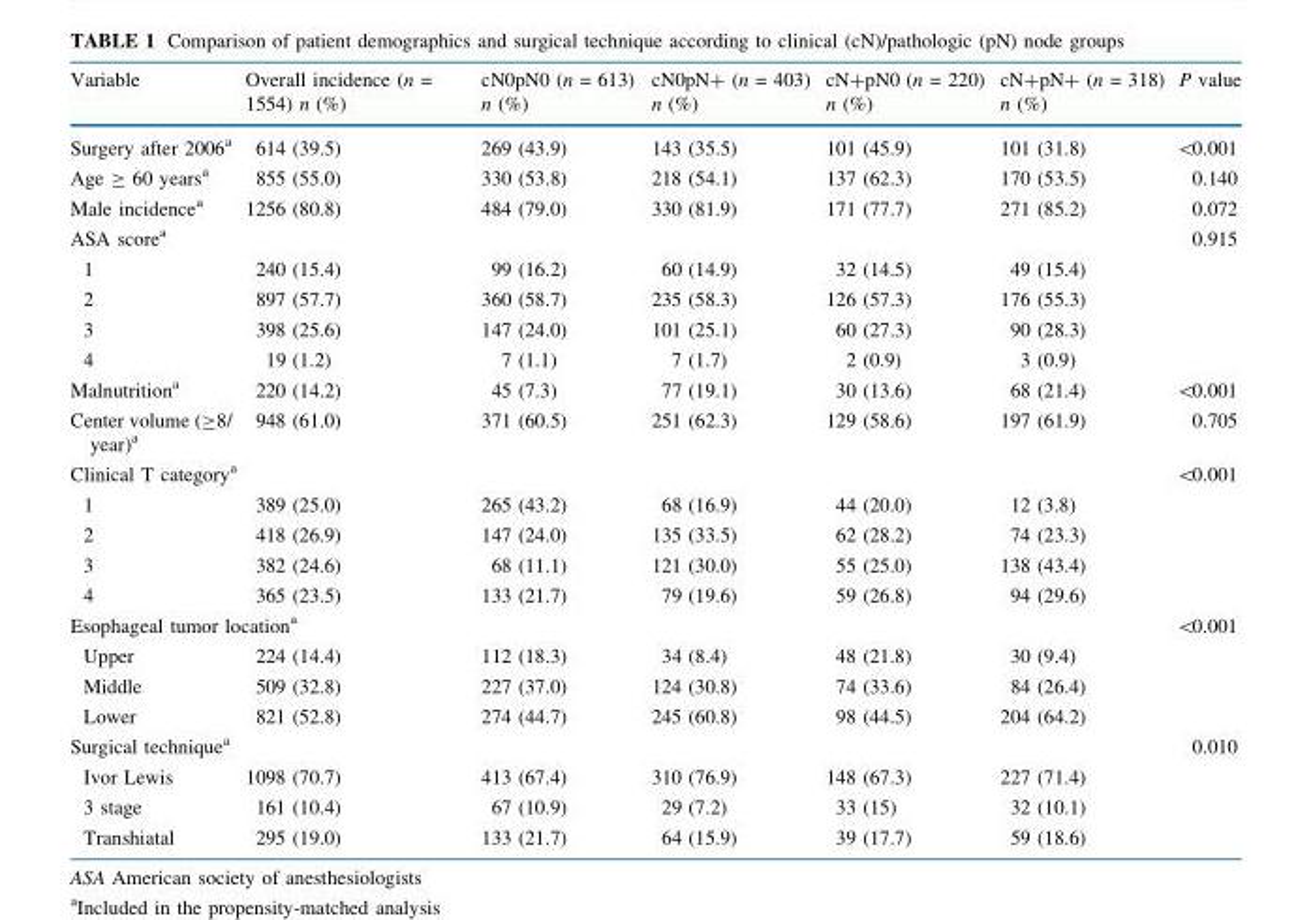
<table><thead><tr><td>Variable</td><td>Overall incidence (n = 1554) n (%)</td><td>cN0pN0 (n = 613) n (%)</td><td>cN0pN+ (n = 403) n (%)</td><td>cN+pN0 (n = 220) n (%)</td><td>cN+pN+ (n = 318) n (%)</td><td>P value</td></tr></thead><tbody><tr><td>Surgery after 2006<sup>a</sup></td><td>614 (39.5)</td><td>269 (43.9)</td><td>143 (35.5)</td><td>101 (45.9)</td><td>101 (31.8)</td><td>&lt;0.001</td></tr><tr><td>Age ≥ 60 years<sup>a</sup></td><td>855 (55.0)</td><td>330 (53.8)</td><td>218 (54.1)</td><td>137 (62.3)</td><td>170 (53.5)</td><td>0.140</td></tr><tr><td>Male incidence<sup>a</sup></td><td>1256 (80.8)</td><td>484 (79.0)</td><td>330 (81.9)</td><td>171 (77.7)</td><td>271 (85.2)</td><td>0.072</td></tr><tr><td>ASA score<sup>a</sup></td><td></td><td></td><td></td><td></td><td></td><td>0.915</td></tr><tr><td>1</td><td>240 (15.4)</td><td>99 (16.2)</td><td>60 (14.9)</td><td>32 (14.5)</td><td>49 (15.4)</td><td></td></tr><tr><td>2</td><td>897 (57.7)</td><td>360 (58.7)</td><td>235 (58.3)</td><td>126 (57.3)</td><td>176 (55.3)</td><td></td></tr><tr><td>3</td><td>398 (25.6)</td><td>147 (24.0)</td><td>101 (25.1)</td><td>60 (27.3)</td><td>90 (28.3)</td><td></td></tr><tr><td>4</td><td>19 (1.2)</td><td>7 (1.1)</td><td>7 (1.7)</td><td>2 (0.9)</td><td>3 (0.9)</td><td></td></tr><tr><td>Malnutrition<sup>a</sup></td><td>220 (14.2)</td><td>45 (7.3)</td><td>77 (19.1)</td><td>30 (13.6)</td><td>68 (21.4)</td><td>&lt;0.001</td></tr><tr><td>Center volume (≥8/ year)<sup>a</sup></td><td>948 (61.0)</td><td>371 (60.5)</td><td>251 (62.3)</td><td>129 (58.6)</td><td>197 (61.9)</td><td>0.705</td></tr><tr><td colspan="6">Clinical T category<sup>a</sup></td><td>&lt;0.001</td></tr><tr><td>1</td><td>389 (25.0)</td><td>265 (43.2)</td><td>68 (16.9)</td><td>44 (20.0)</td><td>12 (3.8)</td><td></td></tr><tr><td>2</td><td>418 (26.9)</td><td>147 (24.0)</td><td>135 (33.5)</td><td>62 (28.2)</td><td>74 (23.3)</td><td></td></tr><tr><td>3</td><td>382 (24.6)</td><td>68 (11.1)</td><td>121 (30.0)</td><td>55 (25.0)</td><td>138 (43.4)</td><td></td></tr><tr><td>4</td><td>365 (23.5)</td><td>133 (21.7)</td><td>79 (19.6)</td><td>59 (26.8)</td><td>94 (29.6)</td><td></td></tr><tr><td colspan="6">Esophageal tumor location<sup>a</sup></td><td>&lt;0.001</td></tr><tr><td>Upper</td><td>224 (14.4)</td><td>112 (18.3)</td><td>34 (8.4)</td><td>48 (21.8)</td><td>30 (9.4)</td><td></td></tr><tr><td>Middle</td><td>509 (32.8)</td><td>227 (37.0)</td><td>124 (30.8)</td><td>74 (33.6)</td><td>84 (26.4)</td><td></td></tr><tr><td>Lower</td><td>821 (52.8)</td><td>274 (44.7)</td><td>245 (60.8)</td><td>98 (44.5)</td><td>204 (64.2)</td><td></td></tr><tr><td colspan="6">Surgical technique<sup>a</sup></td><td>0.010</td></tr><tr><td>Ivor Lewis</td><td>1098 (70.7)</td><td>413 (67.4)</td><td>310 (76.9)</td><td>148 (67.3)</td><td>227 (71.4)</td><td></td></tr><tr><td>3 stage</td><td>161 (10.4)</td><td>67 (10.9)</td><td>29 (7.2)</td><td>33 (15)</td><td>32 (10.1)</td><td></td></tr><tr><td>Transhiatal</td><td>295 (19.0)</td><td>133 (21.7)</td><td>64 (15.9)</td><td>39 (17.7)</td><td>59 (18.6)</td><td></td></tr></tbody></table>